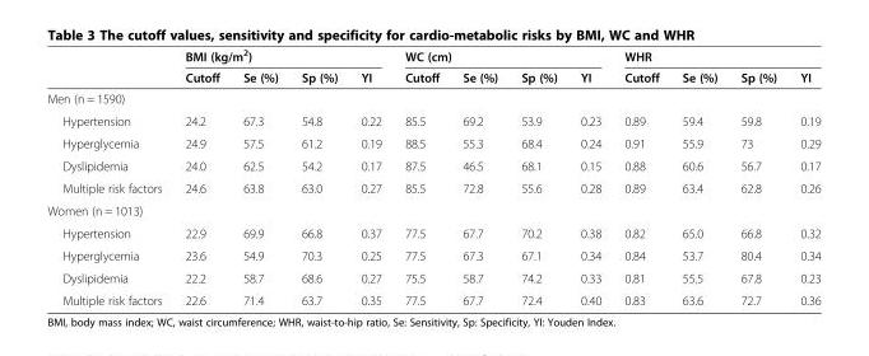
<table><thead><tr><td rowspan="2"></td><td colspan="4">BMI (kg/m<sup>2</sup>)</td><td colspan="4">WC (cm)</td><td colspan="4">WHR</td></tr><tr><td>Cutoff</td><td>Se (%)</td><td>Sp (%)</td><td>YI</td><td>Cutoff</td><td>Se (%)</td><td>Sp (%)</td><td>YI</td><td>Cutoff</td><td>Se (%)</td><td>Sp (%)</td><td>YI</td></tr></thead><tbody><tr><td colspan="13">Men (n = 1590)</td></tr><tr><td>Hypertension</td><td>24.2</td><td>67.3</td><td>54.8</td><td>0.22</td><td>85.5</td><td>69.2</td><td>53.9</td><td>0.23</td><td>0.89</td><td>59.4</td><td>59.8</td><td>0.19</td></tr><tr><td>Hyperglycemia</td><td>24.9</td><td>57.5</td><td>61.2</td><td>0.19</td><td>88.5</td><td>55.3</td><td>68.4</td><td>0.24</td><td>0.91</td><td>55.9</td><td>73</td><td>0.29</td></tr><tr><td>Dyslipidemia</td><td>24.0</td><td>62.5</td><td>54.2</td><td>0.17</td><td>87.5</td><td>46.5</td><td>68.1</td><td>0.15</td><td>0.88</td><td>60.6</td><td>56.7</td><td>0.17</td></tr><tr><td>Multiple risk factors</td><td>24.6</td><td>63.8</td><td>63.0</td><td>0.27</td><td>85.5</td><td>72.8</td><td>55.6</td><td>0.28</td><td>0.89</td><td>63.4</td><td>62.8</td><td>0.26</td></tr><tr><td colspan="13">Women (n = 1013)</td></tr><tr><td>Hypertension</td><td>22.9</td><td>69.9</td><td>66.8</td><td>0.37</td><td>77.5</td><td>67.7</td><td>70.2</td><td>0.38</td><td>0.82</td><td>65.0</td><td>66.8</td><td>0.32</td></tr><tr><td>Hyperglycemia</td><td>23.6</td><td>54.9</td><td>70.3</td><td>0.25</td><td>77.5</td><td>67.3</td><td>67.1</td><td>0.34</td><td>0.84</td><td>53.7</td><td>80.4</td><td>0.34</td></tr><tr><td>Dyslipidemia</td><td>22.2</td><td>58.7</td><td>68.6</td><td>0.27</td><td>75.5</td><td>58.7</td><td>74.2</td><td>0.33</td><td>0.81</td><td>55.5</td><td>67.8</td><td>0.23</td></tr><tr><td>Multiple risk factors</td><td>22.6</td><td>71.4</td><td>63.7</td><td>0.35</td><td>77.5</td><td>67.7</td><td>72.4</td><td>0.40</td><td>0.83</td><td>63.6</td><td>72.7</td><td>0.36</td></tr></tbody></table>